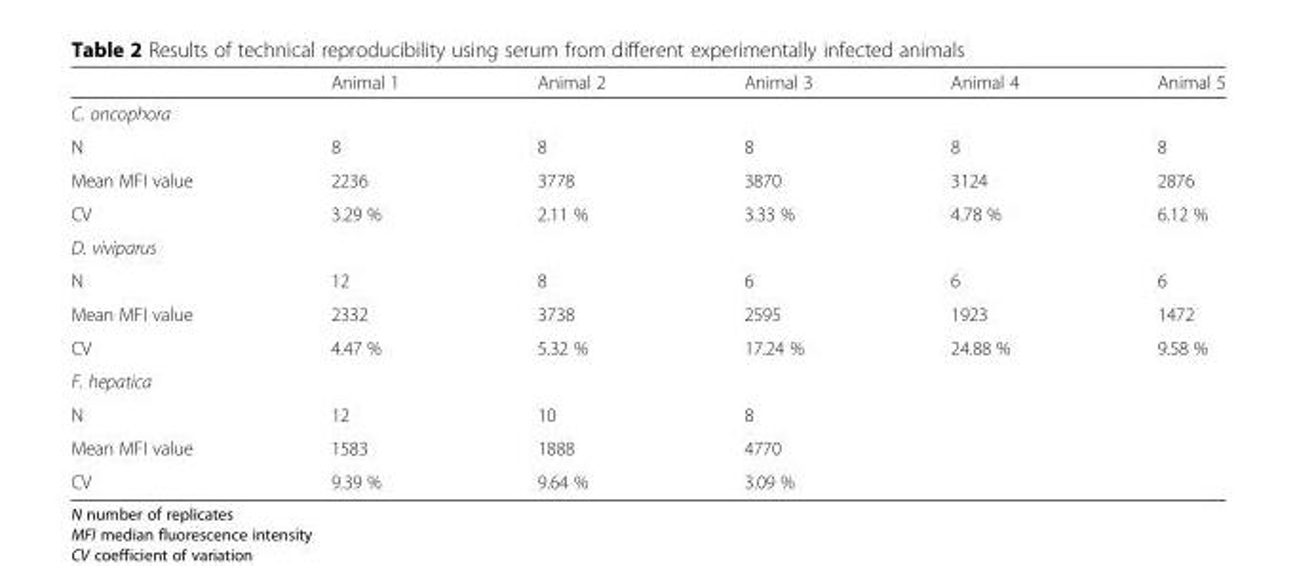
<table><thead><tr><td></td><td>Animal 1</td><td>Animal 2</td><td>Animal 3</td><td>Animal 4</td><td>Animal 5</td></tr></thead><tbody><tr><td colspan="6">C. oncophora</td></tr><tr><td>N</td><td>8</td><td>8</td><td>8</td><td>8</td><td>8</td></tr><tr><td>Mean MFI value</td><td>2236</td><td>3778</td><td>3870</td><td>3124</td><td>2876</td></tr><tr><td>CV</td><td>3.29 %</td><td>2.11 %</td><td>3.33 %</td><td>4.78 %</td><td>6.12 %</td></tr><tr><td colspan="6">D. viviparus</td></tr><tr><td>N</td><td>12</td><td>8</td><td>6</td><td>6</td><td>6</td></tr><tr><td>Mean MFI value</td><td>2332</td><td>3738</td><td>2595</td><td>1923</td><td>1472</td></tr><tr><td>CV</td><td>4.47 %</td><td>5.32 %</td><td>17.24 %</td><td>24.88 %</td><td>9.58 %</td></tr><tr><td colspan="6">F. hepatica</td></tr><tr><td>N</td><td>12</td><td>10</td><td>8</td><td></td><td></td></tr><tr><td>Mean MFI value</td><td>1583</td><td>1888</td><td>4770</td><td></td><td></td></tr><tr><td>CV</td><td>9.39 %</td><td>9.64 %</td><td>3.09 %</td><td></td><td></td></tr></tbody></table>